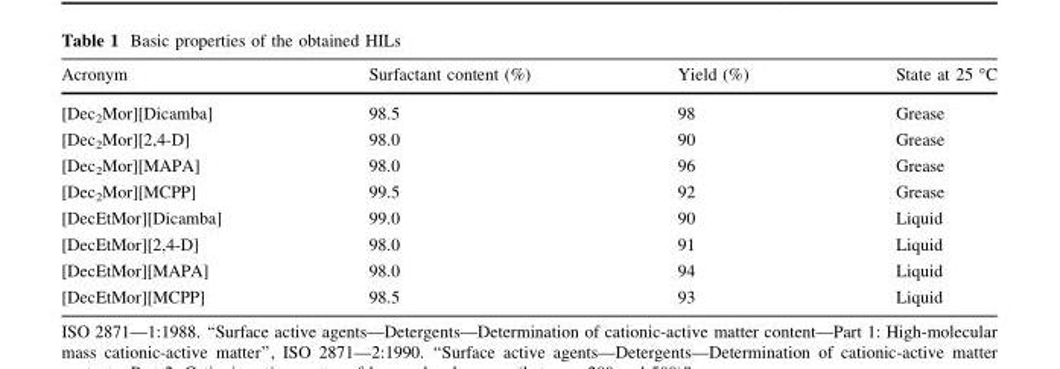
<table><thead><tr><td>Acronym</td><td>Surfactant content (%)</td><td>Yield (%)</td><td>State at 25 °C</td></tr></thead><tbody><tr><td>[Dec<sub>2</sub>Mor][Dicamba]</td><td>98.5</td><td>98</td><td>Grease</td></tr><tr><td>[Dec<sub>2</sub>Mor][2,4-D]</td><td>98.0</td><td>90</td><td>Grease</td></tr><tr><td>[Dec<sub>2</sub>Mor][MAPA]</td><td>98.0</td><td>96</td><td>Grease</td></tr><tr><td>[Dec<sub>2</sub>Mor][MCPP]</td><td>99.5</td><td>92</td><td>Grease</td></tr><tr><td>[DecEtMor][Dicamba]</td><td>99.0</td><td>90</td><td>Liquid</td></tr><tr><td>[DecEtMor][2,4-D]</td><td>98.0</td><td>91</td><td>Liquid</td></tr><tr><td>[DecEtMor][MAPA]</td><td>98.0</td><td>94</td><td>Liquid</td></tr><tr><td>[DecEtMor][MCPP]</td><td>98.5</td><td>93</td><td>Liquid</td></tr></tbody></table>